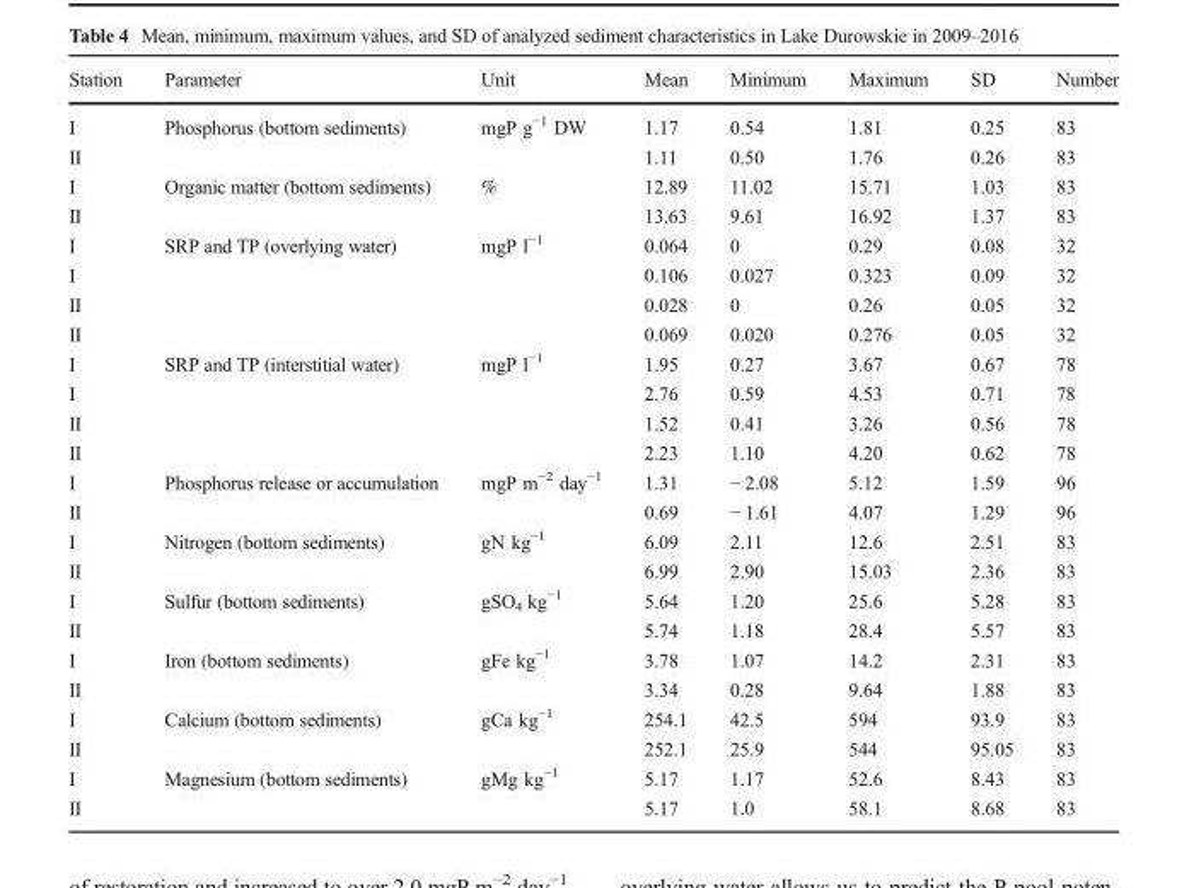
<table><thead><tr><td>Station</td><td>Parameter</td><td>Unit</td><td>Mean</td><td>Minimum</td><td>Maximum</td><td>SD</td><td>Number</td></tr></thead><tbody><tr><td>I</td><td rowspan="2">Phosphorus (bottom sediments)</td><td rowspan="2">mgP g<sup>−1</sup> DW</td><td>1.17</td><td>0.54</td><td>1.81</td><td>0.25</td><td>83</td></tr><tr><td>II</td><td>1.11</td><td>0.50</td><td>1.76</td><td>0.26</td><td>83</td></tr><tr><td>I</td><td rowspan="2">Organic matter (bottom sediments)</td><td rowspan="2">%</td><td>12.89</td><td>11.02</td><td>15.71</td><td>1.03</td><td>83</td></tr><tr><td>II</td><td>13.63</td><td>9.61</td><td>16.92</td><td>1.37</td><td>83</td></tr><tr><td>I</td><td rowspan="4">SRP and TP (overlying water)</td><td rowspan="4">mgP l<sup>−1</sup></td><td>0.064</td><td>0</td><td>0.29</td><td>0.08</td><td>32</td></tr><tr><td>I</td><td>0.106</td><td>0.027</td><td>0.323</td><td>0.09</td><td>32</td></tr><tr><td>II</td><td>0.028</td><td>0</td><td>0.26</td><td>0.05</td><td>32</td></tr><tr><td>II</td><td>0.069</td><td>0.020</td><td>0.276</td><td>0.05</td><td>32</td></tr><tr><td>I</td><td rowspan="4">SRP and TP (interstitial water)</td><td rowspan="4">mgP l<sup>−1</sup></td><td>1.95</td><td>0.27</td><td>3.67</td><td>0.67</td><td>78</td></tr><tr><td>I</td><td>2.76</td><td>0.59</td><td>4.53</td><td>0.71</td><td>78</td></tr><tr><td>II</td><td>1.52</td><td>0.41</td><td>3.26</td><td>0.56</td><td>78</td></tr><tr><td>II</td><td>2.23</td><td>1.10</td><td>4.20</td><td>0.62</td><td>78</td></tr><tr><td>I</td><td rowspan="2">Phosphorus release or accumulation</td><td rowspan="2">mgP m<sup>−2</sup> day<sup>−1</sup></td><td>1.31</td><td>− 2.08</td><td>5.12</td><td>1.59</td><td>96</td></tr><tr><td>II</td><td>0.69</td><td>− 1.61</td><td>4.07</td><td>1.29</td><td>96</td></tr><tr><td>I</td><td rowspan="2">Nitrogen (bottom sediments)</td><td rowspan="2">gN kg<sup>−1</sup></td><td>6.09</td><td>2.11</td><td>12.6</td><td>2.51</td><td>83</td></tr><tr><td>II</td><td>6.99</td><td>2.90</td><td>15.03</td><td>2.36</td><td>83</td></tr><tr><td>I</td><td rowspan="2">Sulfur (bottom sediments)</td><td rowspan="2">gSO<sub>4</sub> kg<sup>−1</sup></td><td>5.64</td><td>1.20</td><td>25.6</td><td>5.28</td><td>83</td></tr><tr><td>II</td><td>5.74</td><td>1.18</td><td>28.4</td><td>5.57</td><td>83</td></tr><tr><td>I</td><td rowspan="2">Iron (bottom sediments)</td><td rowspan="2">gFe kg<sup>−1</sup></td><td>3.78</td><td>1.07</td><td>14.2</td><td>2.31</td><td>83</td></tr><tr><td>II</td><td>3.34</td><td>0.28</td><td>9.64</td><td>1.88</td><td>83</td></tr><tr><td>I</td><td rowspan="2">Calcium (bottom sediments)</td><td rowspan="2">gCa kg<sup>−1</sup></td><td>254.1</td><td>42.5</td><td>594</td><td>93.9</td><td>83</td></tr><tr><td>II</td><td>252.1</td><td>25.9</td><td>544</td><td>95.05</td><td>83</td></tr><tr><td>I</td><td rowspan="2">Magnesium (bottom sediments)</td><td rowspan="2">gMg kg<sup>−1</sup></td><td>5.17</td><td>1.17</td><td>52.6</td><td>8.43</td><td>83</td></tr><tr><td>II</td><td>5.17</td><td>1.0</td><td>58.1</td><td>8.68</td><td>83</td></tr></tbody></table>